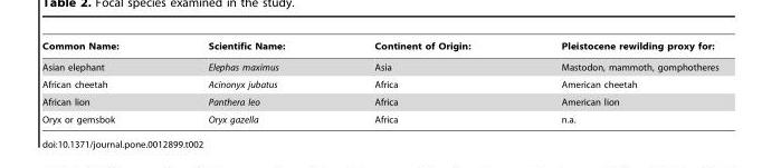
<table><thead><tr><td>Common Name:</td><td>Scientific Name:</td><td>Continent of Origin:</td><td>Pleistocene rewilding proxy for:</td></tr></thead><tbody><tr><td>Asian elephant</td><td>Elephas maximus</td><td>Asia</td><td>Mastodon, mammoth, gomphotheres</td></tr><tr><td>African cheetah</td><td>Acinonyx jubatus</td><td>Africa</td><td>American cheetah</td></tr><tr><td>African lion</td><td>Panthera leo</td><td>Africa</td><td>American lion</td></tr><tr><td>Oryx or gemsbok</td><td>Oryx gazella</td><td>Africa</td><td>n.a.</td></tr></tbody></table>